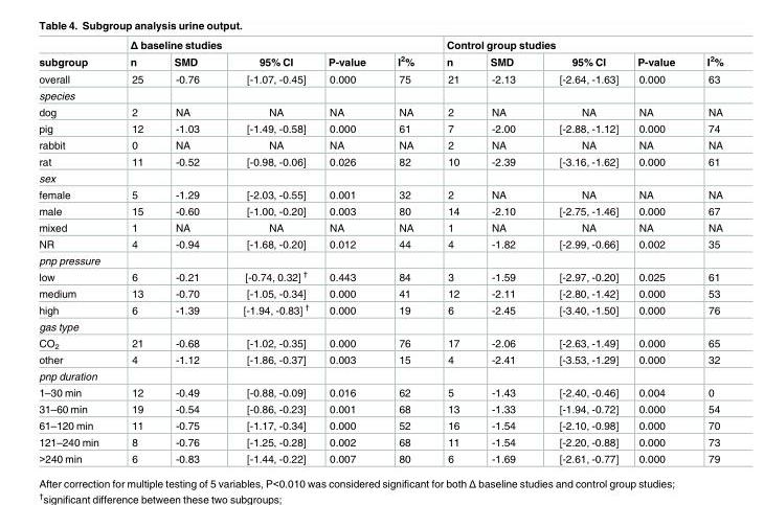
<table><thead><tr><td rowspan="2">subgroup</td><td colspan="5">Δ baseline studies</td><td colspan="5">Control group studies</td></tr><tr><td>n</td><td>SMD</td><td>95% CI</td><td>P-value</td><td>I<sup>2</sup>%</td><td>n</td><td>SMD</td><td>95% CI</td><td>P-value</td><td>I<sup>2</sup>%</td></tr></thead><tbody><tr><td>overall</td><td>25</td><td>-0.76</td><td>[-1.07, -0.45]</td><td>0.000</td><td>75</td><td>21</td><td>-2.13</td><td>[-2.64, -1.63]</td><td>0.000</td><td>63</td></tr><tr><td colspan="11">species</td></tr><tr><td>dog</td><td>2</td><td>NA</td><td>NA</td><td>NA</td><td>NA</td><td>2</td><td>NA</td><td>NA</td><td>NA</td><td>NA</td></tr><tr><td>pig</td><td>12</td><td>-1.03</td><td>[-1.49, -0.58]</td><td>0.000</td><td>61</td><td>7</td><td>-2.00</td><td>[-2.88, -1.12]</td><td>0.000</td><td>74</td></tr><tr><td>rabbit</td><td>0</td><td>NA</td><td>NA</td><td>NA</td><td>NA</td><td>2</td><td>NA</td><td>NA</td><td>NA</td><td>NA</td></tr><tr><td>rat</td><td>11</td><td>-0.52</td><td>[-0.98, -0.06]</td><td>0.026</td><td>82</td><td>10</td><td>-2.39</td><td>[-3.16, -1.62]</td><td>0.000</td><td>61</td></tr><tr><td colspan="11">sex</td></tr><tr><td>female</td><td>5</td><td>-1.29</td><td>[-2.03, -0.55]</td><td>0.001</td><td>32</td><td>2</td><td>NA</td><td>NA</td><td>NA</td><td>NA</td></tr><tr><td>male</td><td>15</td><td>-0.60</td><td>[-1.00, -0.20]</td><td>0.003</td><td>80</td><td>14</td><td>-2.10</td><td>[-2.75, -1.46]</td><td>0.000</td><td>67</td></tr><tr><td>mixed</td><td>1</td><td>NA</td><td>NA</td><td>NA</td><td>NA</td><td>1</td><td>NA</td><td>NA</td><td>NA</td><td>NA</td></tr><tr><td>NR</td><td>4</td><td>-0.94</td><td>[-1.68, -0.20]</td><td>0.012</td><td>44</td><td>4</td><td>-1.82</td><td>[-2.99, -0.66]</td><td>0.002</td><td>35</td></tr><tr><td colspan="11">pnp pressure</td></tr><tr><td>low</td><td>6</td><td>-0.21</td><td>[-0.74, 0.32] <sup>†</sup></td><td>0.443</td><td>84</td><td>3</td><td>-1.59</td><td>[-2.97, -0.20]</td><td>0.025</td><td>61</td></tr><tr><td>medium</td><td>13</td><td>-0.70</td><td>[-1.05, -0.34]</td><td>0.000</td><td>41</td><td>12</td><td>-2.11</td><td>[-2.80, -1.42]</td><td>0.000</td><td>53</td></tr><tr><td>high</td><td>6</td><td>-1.39</td><td>[-1.94, -0.83] <sup>†</sup></td><td>0.000</td><td>19</td><td>6</td><td>-2.45</td><td>[-3.40, -1.50]</td><td>0.000</td><td>76</td></tr><tr><td colspan="11">gas type</td></tr><tr><td>CO<sub>2</sub></td><td>21</td><td>-0.68</td><td>[-1.02, -0.35]</td><td>0.000</td><td>76</td><td>17</td><td>-2.06</td><td>[-2.63, -1.49]</td><td>0.000</td><td>65</td></tr><tr><td>other</td><td>4</td><td>-1.12</td><td>[-1.86, -0.37]</td><td>0.003</td><td>15</td><td>4</td><td>-2.41</td><td>[-3.53, -1.29]</td><td>0.000</td><td>32</td></tr><tr><td colspan="11">pnp duration</td></tr><tr><td>1–30 min</td><td>12</td><td>-0.49</td><td>[-0.88, -0.09]</td><td>0.016</td><td>62</td><td>5</td><td>-1.43</td><td>[-2.40, -0.46]</td><td>0.004</td><td>0</td></tr><tr><td>31–60 min</td><td>19</td><td>-0.54</td><td>[-0.86, -0.23]</td><td>0.001</td><td>68</td><td>13</td><td>-1.33</td><td>[-1.94, -0.72]</td><td>0.000</td><td>54</td></tr><tr><td>61–120 min</td><td>11</td><td>-0.75</td><td>[-1.17, -0.34]</td><td>0.000</td><td>52</td><td>16</td><td>-1.54</td><td>[-2.10, -0.98]</td><td>0.000</td><td>70</td></tr><tr><td>121–240 min</td><td>8</td><td>-0.76</td><td>[-1.25, -0.28]</td><td>0.002</td><td>68</td><td>11</td><td>-1.54</td><td>[-2.20, -0.88]</td><td>0.000</td><td>73</td></tr><tr><td>&gt;240 min</td><td>6</td><td>-0.83</td><td>[-1.44, -0.22]</td><td>0.007</td><td>80</td><td>6</td><td>-1.69</td><td>[-2.61, -0.77]</td><td>0.000</td><td>79</td></tr></tbody></table>